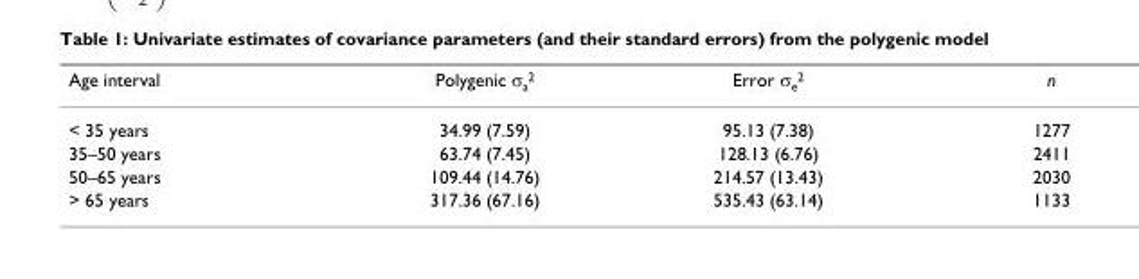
<table><thead><tr><td>Age interval</td><td>Polygenic σa2</td><td>Error σe2</td><td>n</td></tr></thead><tbody><tr><td>&lt; 35 years</td><td>34.99 (7.59)</td><td>95.13 (7.38)</td><td>1277</td></tr><tr><td>35–50 years</td><td>63.74 (7.45)</td><td>128.13 (6.76)</td><td>2411</td></tr><tr><td>50–65 years</td><td>109.44 (14.76)</td><td>214.57 (13.43)</td><td>2030</td></tr><tr><td>&gt; 65 years</td><td>317.36 (67.16)</td><td>535.43 (63.14)</td><td>1133</td></tr></tbody></table>